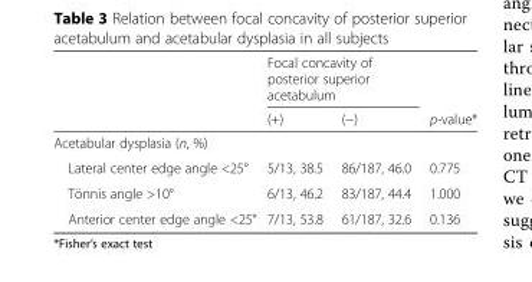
<table><thead><tr><td rowspan="2"></td><td colspan="2">Focal concavity of posterior superior acetabulum</td><td rowspan="2">p-value*</td></tr><tr><td>(+)</td><td>(−)</td></tr></thead><tbody><tr><td colspan="4">Acetabular dysplasia (n, %)</td></tr><tr><td>Lateral center edge angle &lt;25°</td><td>5/13, 38.5</td><td>86/187, 46.0</td><td>0.775</td></tr><tr><td>Tönnis angle &gt;10°</td><td>6/13, 46.2</td><td>83/187, 44.4</td><td>1.000</td></tr><tr><td>Anterior center edge angle &lt;25°</td><td>7/13, 53.8</td><td>61/187, 32.6</td><td>0.136</td></tr></tbody></table>